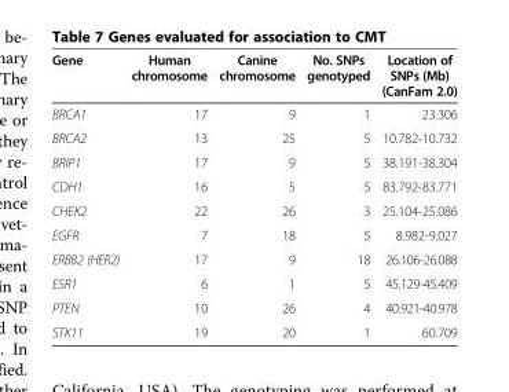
<table><thead><tr><td>Gene</td><td>Human chromosome</td><td>Canine chromosome</td><td>No. SNPs genotyped</td><td>Location of SNPs (Mb) (CanFam 2.0)</td></tr></thead><tbody><tr><td>BRCA1</td><td>17</td><td>9</td><td>1</td><td>23.306</td></tr><tr><td>BRCA2</td><td>13</td><td>25</td><td>5</td><td>10.782-10.732</td></tr><tr><td>BRIP1</td><td>17</td><td>9</td><td>5</td><td>38.191-38.304</td></tr><tr><td>CDH1</td><td>16</td><td>5</td><td>5</td><td>83.792-83.771</td></tr><tr><td>CHEK2</td><td>22</td><td>26</td><td>3</td><td>25.104-25.086</td></tr><tr><td>EGFR</td><td>7</td><td>18</td><td>5</td><td>8.982-9.027</td></tr><tr><td>ERBB2 (HER2)</td><td>17</td><td>9</td><td>18</td><td>26.106-26.088</td></tr><tr><td>ESR1</td><td>6</td><td>1</td><td>5</td><td>45.129-45.409</td></tr><tr><td>PTEN</td><td>10</td><td>26</td><td>4</td><td>40.921-40.978</td></tr><tr><td>STK11</td><td>19</td><td>20</td><td>1</td><td>60.709</td></tr></tbody></table>